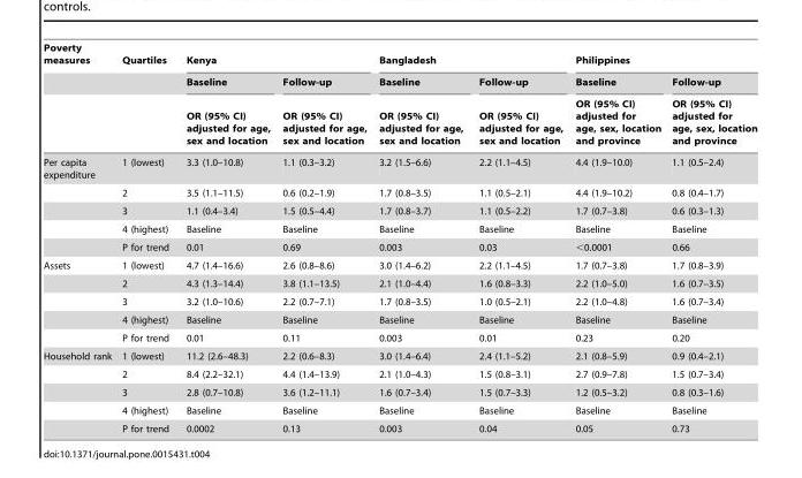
<table><thead><tr><td rowspan="3">Poverty measures</td><td rowspan="3">Quartiles</td><td colspan="2">Kenya</td><td colspan="2">Bangladesh</td><td colspan="2">Philippines</td></tr><tr><td rowspan="2">Baseline OR (95% CI) adjusted for age, sex and location</td><td rowspan="2">Follow-up OR (95% CI) adjusted for age, sex and location</td><td rowspan="2">Baseline OR (95% CI) adjusted for age, sex and location</td><td rowspan="2">Follow-up OR (95% CI) adjusted for age, sex and location</td><td rowspan="2">Baseline OR (95% CI) adjusted for age, sex, location and province</td><td rowspan="2">Follow-up OR (95% CI) adjusted for age, sex, location and province</td></tr><tr></tr></thead><tbody><tr><td rowspan="5">Per capita expenditure</td><td>1 (lowest)</td><td>3.3 (1.0–10.8)</td><td>1.1 (0.3–3.2)</td><td>3.2 (1.5–6.6)</td><td>2.2 (1.1–4.5)</td><td>4.4 (1.9–10.0)</td><td>1.1 (0.5–2.4)</td></tr><tr><td>2</td><td>3.5 (1.1–11.5)</td><td>0.6 (0.2–1.9)</td><td>1.7 (0.8–3.5)</td><td>1.1 (0.5–2.1)</td><td>4.4 (1.9–10.2)</td><td>0.8 (0.4–1.7)</td></tr><tr><td>3</td><td>1.1 (0.4–3.4)</td><td>1.5 (0.5–4.4)</td><td>1.7 (0.8–3.7)</td><td>1.1 (0.5–2.2)</td><td>1.7 (0.7–3.8)</td><td>0.6 (0.3–1.3)</td></tr><tr><td>4 (highest)</td><td>Baseline</td><td>Baseline</td><td>Baseline</td><td>Baseline</td><td>Baseline</td><td>Baseline</td></tr><tr><td>P for trend</td><td>0.01</td><td>0.69</td><td>0.003</td><td>0.03</td><td>&lt;0.0001</td><td>0.66</td></tr><tr><td rowspan="5">Assets</td><td>1 (lowest)</td><td>4.7 (1.4–16.6)</td><td>2.6 (0.8–8.6)</td><td>3.0 (1.4–6.2)</td><td>2.2 (1.1–4.5)</td><td>1.7 (0.7–3.8)</td><td>1.7 (0.8–3.9)</td></tr><tr><td>2</td><td>4.3 (1.3–14.4)</td><td>3.8 (1.1–13.5)</td><td>2.1 (1.0–4.4)</td><td>1.6 (0.8–3.3)</td><td>2.2 (1.0–5.0)</td><td>1.6 (0.7–3.5)</td></tr><tr><td>3</td><td>3.2 (1.0–10.6)</td><td>2.2 (0.7–7.1)</td><td>1.7 (0.8–3.5)</td><td>1.0 (0.5–2.1)</td><td>2.2 (1.0–4.8)</td><td>1.6 (0.7–3.4)</td></tr><tr><td>4 (highest)</td><td>Baseline</td><td>Baseline</td><td>Baseline</td><td>Baseline</td><td>Baseline</td><td>Baseline</td></tr><tr><td>P for trend</td><td>0.01</td><td>0.11</td><td>0.003</td><td>0.01</td><td>0.23</td><td>0.20</td></tr><tr><td rowspan="5">Household rank</td><td>1 (lowest)</td><td>11.2 (2.6–48.3)</td><td>2.2 (0.6–8.3)</td><td>3.0 (1.4–6.4)</td><td>2.4 (1.1–5.2)</td><td>2.1 (0.8–5.9)</td><td>0.9 (0.4–2.1)</td></tr><tr><td>2</td><td>8.4 (2.2–32.1)</td><td>4.4 (1.4–13.9)</td><td>2.1 (1.0–4.3)</td><td>1.5 (0.8–3.1)</td><td>2.7 (0.9–7.8)</td><td>1.5 (0.7–3.4)</td></tr><tr><td>3</td><td>2.8 (0.7–10.8)</td><td>3.6 (1.2–11.1)</td><td>1.6 (0.7–3.4)</td><td>1.5 (0.7–3.3)</td><td>1.2 (0.5–3.2)</td><td>0.8 (0.3–1.6)</td></tr><tr><td>4 (highest)</td><td>Baseline</td><td>Baseline</td><td>Baseline</td><td>Baseline</td><td>Baseline</td><td>Baseline</td></tr><tr><td>P for trend</td><td>0.0002</td><td>0.13</td><td>0.003</td><td>0.04</td><td>0.05</td><td>0.73</td></tr></tbody></table>